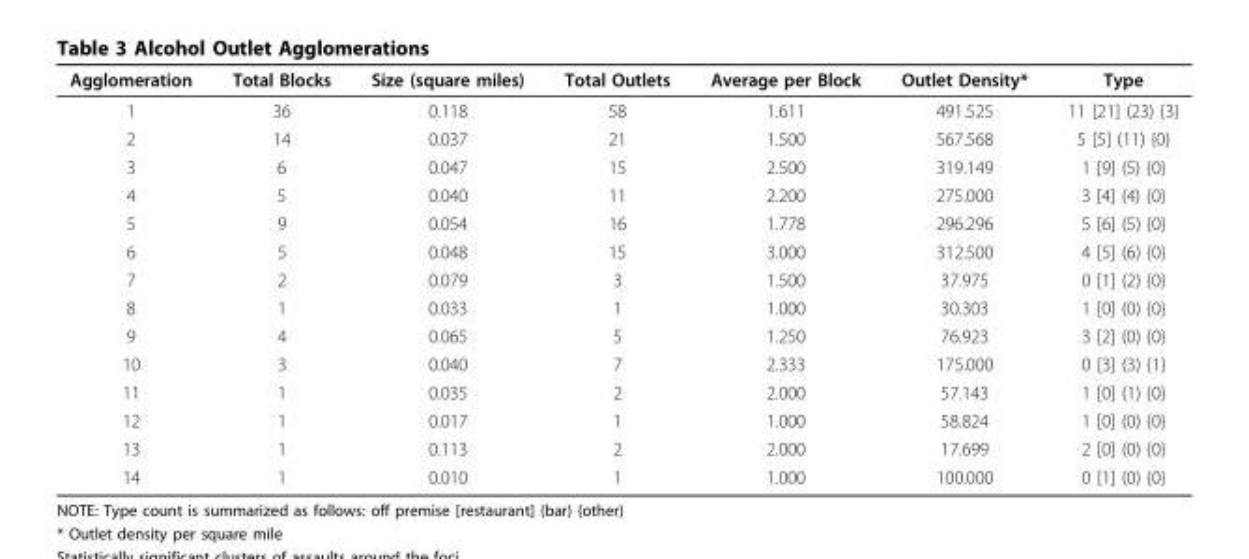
<table><thead><tr><td>Agglomeration</td><td>Total Blocks</td><td>Size (square miles)</td><td>Total Outlets</td><td>Average per Block</td><td>Outlet Density*</td><td>Type</td></tr></thead><tbody><tr><td>1</td><td>36</td><td>0.118</td><td>58</td><td>1.611</td><td>491.525</td><td>11 [21] (23) {3}</td></tr><tr><td>2</td><td>14</td><td>0.037</td><td>21</td><td>1.500</td><td>567.568</td><td>5 [5] (11) {0}</td></tr><tr><td>3</td><td>6</td><td>0.047</td><td>15</td><td>2.500</td><td>319.149</td><td>1 [9] (5) {0}</td></tr><tr><td>4</td><td>5</td><td>0.040</td><td>11</td><td>2.200</td><td>275.000</td><td>3 [4] (4) {0}</td></tr><tr><td>5</td><td>9</td><td>0.054</td><td>16</td><td>1.778</td><td>296.296</td><td>5 [6] (5) {0}</td></tr><tr><td>6</td><td>5</td><td>0.048</td><td>15</td><td>3.000</td><td>312.500</td><td>4 [5] (6) {0}</td></tr><tr><td>7</td><td>2</td><td>0.079</td><td>3</td><td>1.500</td><td>37.975</td><td>0 [1] (2) {0}</td></tr><tr><td>8</td><td>1</td><td>0.033</td><td>1</td><td>1.000</td><td>30.303</td><td>1 [0] (0) {0}</td></tr><tr><td>9</td><td>4</td><td>0.065</td><td>5</td><td>1.250</td><td>76.923</td><td>3 [2] (0) {0}</td></tr><tr><td>10</td><td>3</td><td>0.040</td><td>7</td><td>2.333</td><td>175.000</td><td>0 [3] (3) {1}</td></tr><tr><td>11</td><td>1</td><td>0.035</td><td>2</td><td>2.000</td><td>57.143</td><td>1 [0] (1) {0}</td></tr><tr><td>12</td><td>1</td><td>0.017</td><td>1</td><td>1.000</td><td>58.824</td><td>1 [0] (0) {0}</td></tr><tr><td>13</td><td>1</td><td>0.113</td><td>2</td><td>2.000</td><td>17.699</td><td>2 [0] (0) {0}</td></tr><tr><td>14</td><td>1</td><td>0.010</td><td>1</td><td>1.000</td><td>100.000</td><td>0 [1] (0) {0}</td></tr></tbody></table>